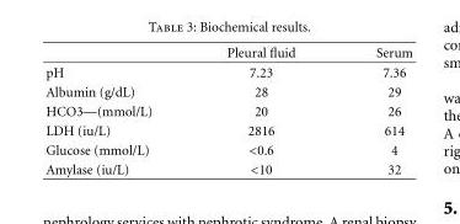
<table><thead><tr><td></td><td>Pleural fluid</td><td>Serum</td></tr></thead><tbody><tr><td>pH</td><td>7.23</td><td>7.36</td></tr><tr><td>Albumin (g/dL)</td><td>28</td><td>29</td></tr><tr><td>HCO3—(mmol/L)</td><td>20</td><td>26</td></tr><tr><td>LDH (iu/L)</td><td>2816</td><td>614</td></tr><tr><td>Glucose (mmol/L)</td><td>&lt;0.6</td><td>4</td></tr><tr><td>Amylase (iu/L)</td><td>&lt;10</td><td>32</td></tr></tbody></table>